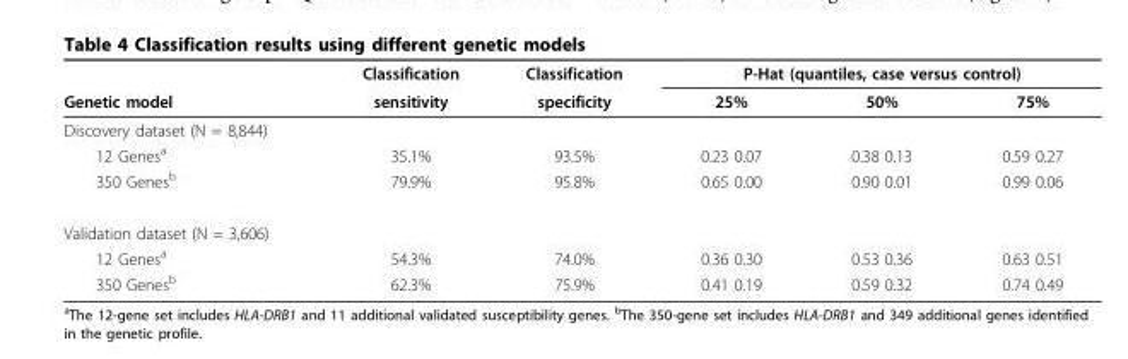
<table><thead><tr><td rowspan="2">Genetic model</td><td rowspan="2">Classification sensitivity</td><td rowspan="2">Classification specificity</td><td colspan="3">P-Hat (quantiles, case versus control)</td></tr><tr><td>25%</td><td>50%</td><td>75%</td></tr></thead><tbody><tr><td colspan="6">Discovery dataset (N = 8,844)</td></tr><tr><td>12 Genes<sup>a</sup></td><td>35.1%</td><td>93.5%</td><td>0.23 0.07</td><td>0.38 0.13</td><td>0.59 0.27</td></tr><tr><td>350 Genes<sup>b</sup></td><td>79.9%</td><td>95.8%</td><td>0.65 0.00</td><td>0.90 0.01</td><td>0.99 0.06</td></tr><tr><td colspan="6">Validation dataset (N = 3,606)</td></tr><tr><td>12 Genes<sup>a</sup></td><td>54.3%</td><td>74.0%</td><td>0.36 0.30</td><td>0.53 0.36</td><td>0.63 0.51</td></tr><tr><td>350 Genes<sup>b</sup></td><td>62.3%</td><td>75.9%</td><td>0.41 0.19</td><td>0.59 0.32</td><td>0.74 0.49</td></tr></tbody></table>